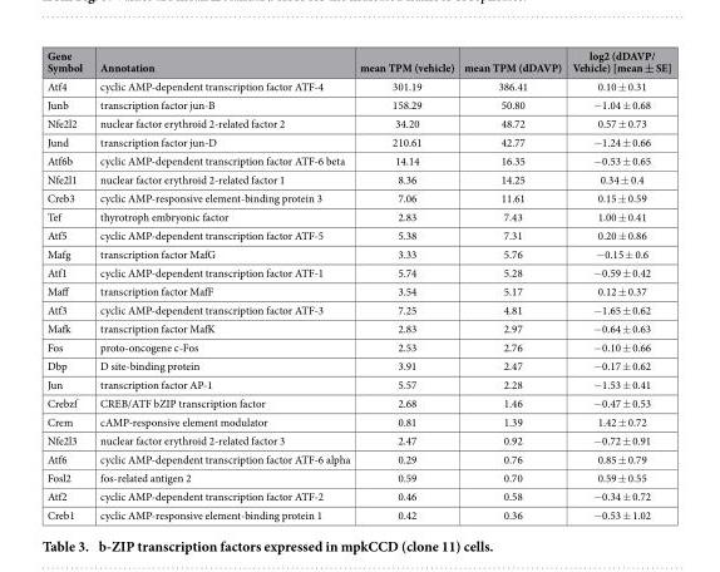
<table><thead><tr><td>Gene Symbol</td><td>Annotation</td><td>mean TPM (vehicle)</td><td>mean TPM (dDAVP)</td><td>log2 (dDAVP/ Vehicle) [mean ± SE]</td></tr></thead><tbody><tr><td>Atf4</td><td>cyclic AMP-dependent transcription factor ATF-4</td><td>301.19</td><td>386.41</td><td>0.10 ± 0.31</td></tr><tr><td>Junb</td><td>transcription factor jun-B</td><td>158.29</td><td>50.80</td><td>− 1.04 ± 0.68</td></tr><tr><td>Nfe2l2</td><td>nuclear factor erythroid 2-related factor 2</td><td>34.20</td><td>48.72</td><td>0.57 ± 0.73</td></tr><tr><td>Jund</td><td>transcription factor jun-D</td><td>210.61</td><td>42.77</td><td>− 1.24 ± 0.66</td></tr><tr><td>Atf6b</td><td>cyclic AMP-dependent transcription factor ATF-6 beta</td><td>14.14</td><td>16.35</td><td>− 0.53 ± 0.65</td></tr><tr><td>Nfe2l1</td><td>nuclear factor erythroid 2-related factor 1</td><td>8.36</td><td>14.25</td><td>0.34 ± 0.4</td></tr><tr><td>Creb3</td><td>cyclic AMP-responsive element-binding protein 3</td><td>7.06</td><td>11.61</td><td>0.15 ± 0.59</td></tr><tr><td>Tef</td><td>thyrotroph embryonic factor</td><td>2.83</td><td>7.43</td><td>1.00 ± 0.41</td></tr><tr><td>Atf5</td><td>cyclic AMP-dependent transcription factor ATF-5</td><td>5.38</td><td>7.31</td><td>0.20 ± 0.86</td></tr><tr><td>Mafg</td><td>transcription factor MafG</td><td>3.33</td><td>5.76</td><td>− 0.15 ± 0.6</td></tr><tr><td>Atf1</td><td>cyclic AMP-dependent transcription factor ATF-1</td><td>5.74</td><td>5.28</td><td>− 0.59 ± 0.42</td></tr><tr><td>Maff</td><td>transcription factor MafF</td><td>3.54</td><td>5.17</td><td>0.12 ± 0.37</td></tr><tr><td>Atf3</td><td>cyclic AMP-dependent transcription factor ATF-3</td><td>7.25</td><td>4.81</td><td>− 1.65 ± 0.62</td></tr><tr><td>Mafk</td><td>transcription factor MafK</td><td>2.83</td><td>2.97</td><td>− 0.64 ± 0.63</td></tr><tr><td>Fos</td><td>proto-oncogene c-Fos</td><td>2.53</td><td>2.76</td><td>− 0.10 ± 0.66</td></tr><tr><td>Dbp</td><td>D site-binding protein</td><td>3.91</td><td>2.47</td><td>− 0.17 ± 0.62</td></tr><tr><td>Jun</td><td>transcription factor AP-1</td><td>5.57</td><td>2.28</td><td>− 1.53 ± 0.41</td></tr><tr><td>Crebzf</td><td>CREB/ATF bZIP transcription factor</td><td>2.68</td><td>1.46</td><td>− 0.47 ± 0.53</td></tr><tr><td>Crem</td><td>cAMP-responsive element modulator</td><td>0.81</td><td>1.39</td><td>1.42 ± 0.72</td></tr><tr><td>Nfe2l3</td><td>nuclear factor erythroid 2-related factor 3</td><td>2.47</td><td>0.92</td><td>− 0.72 ± 0.91</td></tr><tr><td>Atf6</td><td>cyclic AMP-dependent transcription factor ATF-6 alpha</td><td>0.29</td><td>0.76</td><td>0.85 ± 0.79</td></tr><tr><td>Fosl2</td><td>fos-related antigen 2</td><td>0.59</td><td>0.70</td><td>0.59 ± 0.55</td></tr><tr><td>Atf2</td><td>cyclic AMP-dependent transcription factor ATF-2</td><td>0.46</td><td>0.58</td><td>− 0.34 ± 0.72</td></tr><tr><td>Creb1</td><td>cyclic AMP-responsive element-binding protein 1</td><td>0.42</td><td>0.36</td><td>− 0.53 ± 1.02</td></tr></tbody></table>